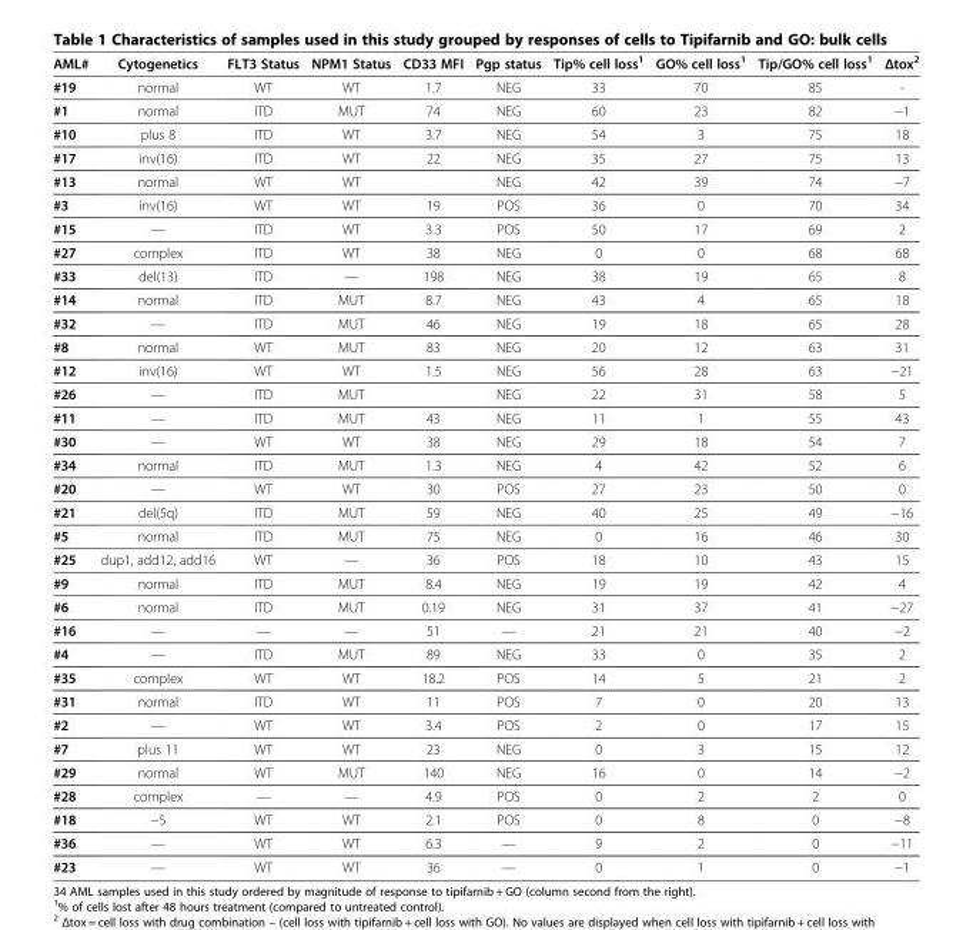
<table><thead><tr><td>AML#</td><td>Cytogenetics</td><td>FLT3 Status</td><td>NPM1 Status</td><td>CD33 MFI</td><td>Pgp status</td><td>Tip% cell loss<sup>1</sup></td><td>GO% cell loss<sup>1</sup></td><td>Tip/GO% cell loss<sup>1</sup></td><td>Δtox<sup>2</sup></td></tr></thead><tbody><tr><td>#19</td><td>normal</td><td>WT</td><td>WT</td><td>1.7</td><td>NEG</td><td>33</td><td>70</td><td>85</td><td>-</td></tr><tr><td>#1</td><td>normal</td><td>ITD</td><td>MUT</td><td>74</td><td>NEG</td><td>60</td><td>23</td><td>82</td><td>−1</td></tr><tr><td>#10</td><td>plus 8</td><td>ITD</td><td>WT</td><td>3.7</td><td>NEG</td><td>54</td><td>3</td><td>75</td><td>18</td></tr><tr><td>#17</td><td>inv(16)</td><td>ITD</td><td>WT</td><td>22</td><td>NEG</td><td>35</td><td>27</td><td>75</td><td>13</td></tr><tr><td>#13</td><td>normal</td><td>WT</td><td>WT</td><td></td><td>NEG</td><td>42</td><td>39</td><td>74</td><td>−7</td></tr><tr><td>#3</td><td>inv(16)</td><td>WT</td><td>WT</td><td>19</td><td>POS</td><td>36</td><td>0</td><td>70</td><td>34</td></tr><tr><td>#15</td><td>—</td><td>ITD</td><td>WT</td><td>3.3</td><td>POS</td><td>50</td><td>17</td><td>69</td><td>2</td></tr><tr><td>#27</td><td>complex</td><td>ITD</td><td>WT</td><td>38</td><td>NEG</td><td>0</td><td>0</td><td>68</td><td>68</td></tr><tr><td>#33</td><td>del(13)</td><td>ITD</td><td>—</td><td>198</td><td>NEG</td><td>38</td><td>19</td><td>65</td><td>8</td></tr><tr><td>#14</td><td>normal</td><td>ITD</td><td>MUT</td><td>8.7</td><td>NEG</td><td>43</td><td>4</td><td>65</td><td>18</td></tr><tr><td>#32</td><td>—</td><td>ITD</td><td>MUT</td><td>46</td><td>NEG</td><td>19</td><td>18</td><td>65</td><td>28</td></tr><tr><td>#8</td><td>normal</td><td>WT</td><td>MUT</td><td>83</td><td>NEG</td><td>20</td><td>12</td><td>63</td><td>31</td></tr><tr><td>#12</td><td>inv(16)</td><td>WT</td><td>WT</td><td>1.5</td><td>NEG</td><td>56</td><td>28</td><td>63</td><td>−21</td></tr><tr><td>#26</td><td>—</td><td>ITD</td><td>MUT</td><td></td><td>NEG</td><td>22</td><td>31</td><td>58</td><td>5</td></tr><tr><td>#11</td><td>—</td><td>ITD</td><td>MUT</td><td>43</td><td>NEG</td><td>11</td><td>1</td><td>55</td><td>43</td></tr><tr><td>#30</td><td>—</td><td>WT</td><td>WT</td><td>38</td><td>NEG</td><td>29</td><td>18</td><td>54</td><td>7</td></tr><tr><td>#34</td><td>normal</td><td>ITD</td><td>MUT</td><td>1.3</td><td>NEG</td><td>4</td><td>42</td><td>52</td><td>6</td></tr><tr><td>#20</td><td>—</td><td>WT</td><td>WT</td><td>30</td><td>POS</td><td>27</td><td>23</td><td>50</td><td>0</td></tr><tr><td>#21</td><td>del(5q)</td><td>ITD</td><td>MUT</td><td>59</td><td>NEG</td><td>40</td><td>25</td><td>49</td><td>−16</td></tr><tr><td>#5</td><td>normal</td><td>ITD</td><td>MUT</td><td>75</td><td>NEG</td><td>0</td><td>16</td><td>46</td><td>30</td></tr><tr><td>#25</td><td>dup1, add12, add16</td><td>WT</td><td>—</td><td>36</td><td>POS</td><td>18</td><td>10</td><td>43</td><td>15</td></tr><tr><td>#9</td><td>normal</td><td>ITD</td><td>MUT</td><td>8.4</td><td>NEG</td><td>19</td><td>19</td><td>42</td><td>4</td></tr><tr><td>#6</td><td>normal</td><td>ITD</td><td>MUT</td><td>0.19</td><td>NEG</td><td>31</td><td>37</td><td>41</td><td>−27</td></tr><tr><td>#16</td><td>—</td><td>—</td><td>—</td><td>51</td><td>—</td><td>21</td><td>21</td><td>40</td><td>−2</td></tr><tr><td>#4</td><td>—</td><td>ITD</td><td>MUT</td><td>89</td><td>NEG</td><td>33</td><td>0</td><td>35</td><td>2</td></tr><tr><td>#35</td><td>complex</td><td>WT</td><td>WT</td><td>18.2</td><td>POS</td><td>14</td><td>5</td><td>21</td><td>2</td></tr><tr><td>#31</td><td>normal</td><td>ITD</td><td>WT</td><td>11</td><td>POS</td><td>7</td><td>0</td><td>20</td><td>13</td></tr><tr><td>#2</td><td>—</td><td>WT</td><td>WT</td><td>3.4</td><td>POS</td><td>2</td><td>0</td><td>17</td><td>15</td></tr><tr><td>#7</td><td>plus 11</td><td>WT</td><td>WT</td><td>23</td><td>NEG</td><td>0</td><td>3</td><td>15</td><td>12</td></tr><tr><td>#29</td><td>normal</td><td>WT</td><td>MUT</td><td>140</td><td>NEG</td><td>16</td><td>0</td><td>14</td><td>−2</td></tr><tr><td>#28</td><td>complex</td><td>—</td><td>—</td><td>4.9</td><td>POS</td><td>0</td><td>2</td><td>2</td><td>0</td></tr><tr><td>#18</td><td>−5</td><td>WT</td><td>WT</td><td>2.1</td><td>POS</td><td>0</td><td>8</td><td>0</td><td>−8</td></tr><tr><td>#36</td><td>—</td><td>WT</td><td>WT</td><td>6.3</td><td>—</td><td>9</td><td>2</td><td>0</td><td>−11</td></tr><tr><td>#23</td><td>—</td><td>WT</td><td>WT</td><td>36</td><td>—</td><td>0</td><td>1</td><td>0</td><td>−1</td></tr></tbody></table>